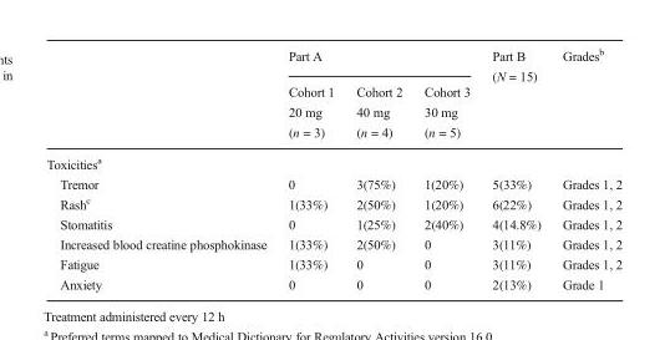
<table><thead><tr><td rowspan="2"></td><td colspan="3">Part A</td><td rowspan="2">Part B (N = 15)</td><td rowspan="2">Grades<sup>b</sup></td></tr><tr><td>Cohort 1 20 mg (n = 3)</td><td>Cohort 2 40 mg (n = 4)</td><td>Cohort 3 30 mg (n = 5)</td></tr></thead><tbody><tr><td colspan="6">Toxicities<sup>a</sup></td></tr><tr><td>Tremor</td><td>0</td><td>3(75%)</td><td>1(20%)</td><td>5(33%)</td><td>Grades 1, 2</td></tr><tr><td>Rash<sup>c</sup></td><td>1(33%)</td><td>2(50%)</td><td>1(20%)</td><td>6(22%)</td><td>Grades 1, 2</td></tr><tr><td>Stomatitis</td><td>0</td><td>1(25%)</td><td>2(40%)</td><td>4(14.8%)</td><td>Grades 1, 2</td></tr><tr><td>Increased blood creatine phosphokinase</td><td>1(33%)</td><td>2(50%)</td><td>0</td><td>3(11%)</td><td>Grades 1, 2</td></tr><tr><td>Fatigue</td><td>1(33%)</td><td>0</td><td>0</td><td>3(11%)</td><td>Grades 1, 2</td></tr><tr><td>Anxiety</td><td>0</td><td>0</td><td>0</td><td>2(13%)</td><td>Grade 1</td></tr></tbody></table>